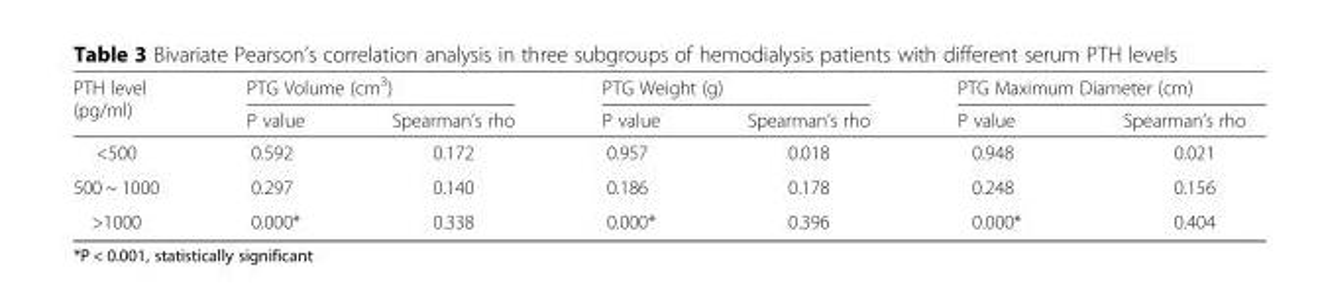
<table><thead><tr><td rowspan="2">PTH level (pg/ml)</td><td colspan="2">PTG Volume (cm<sup>3</sup>)</td><td colspan="2">PTG Weight (g)</td><td colspan="2">PTG Maximum Diameter (cm)</td></tr><tr><td>P value</td><td>Spearman’s rho</td><td>P value</td><td>Spearman’s rho</td><td>P value</td><td>Spearman’s rho</td></tr></thead><tbody><tr><td>&lt;500</td><td>0.592</td><td>0.172</td><td>0.957</td><td>0.018</td><td>0.948</td><td>0.021</td></tr><tr><td>500 ~ 1000</td><td>0.297</td><td>0.140</td><td>0.186</td><td>0.178</td><td>0.248</td><td>0.156</td></tr><tr><td>&gt;1000</td><td>0.000*</td><td>0.338</td><td>0.000*</td><td>0.396</td><td>0.000*</td><td>0.404</td></tr></tbody></table>